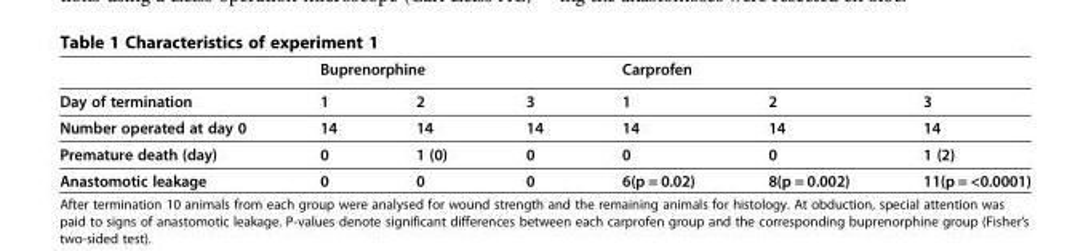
<table><thead><tr><td rowspan="2">Day of termination</td><td colspan="3">Buprenorphine</td><td colspan="3">Carprofen</td></tr><tr><td>1</td><td>2</td><td>3</td><td>1</td><td>2</td><td>3</td></tr></thead><tbody><tr><td>Number operated at day 0</td><td>14</td><td>14</td><td>14</td><td>14</td><td>14</td><td>14</td></tr><tr><td>Premature death (day)</td><td>0</td><td>1 (0)</td><td>0</td><td>0</td><td>0</td><td>1 (2)</td></tr><tr><td>Anastomotic leakage</td><td>0</td><td>0</td><td>0</td><td>6(p = 0.02)</td><td>8(p = 0.002)</td><td>11(p = &lt;0.0001)</td></tr></tbody></table>